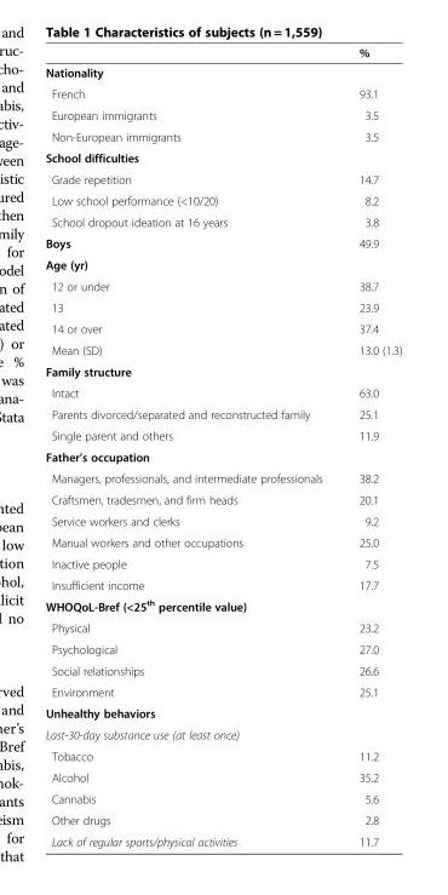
<table><thead><tr><td></td><td>%</td></tr></thead><tbody><tr><td colspan="2">Nationality</td></tr><tr><td>French</td><td>93.1</td></tr><tr><td>European immigrants</td><td>3.5</td></tr><tr><td>Non-European immigrants</td><td>3.5</td></tr><tr><td colspan="2">School difficulties</td></tr><tr><td>Grade repetition</td><td>14.7</td></tr><tr><td>Low school performance (&lt;10/20)</td><td>8.2</td></tr><tr><td>School dropout ideation at 16 years</td><td>3.8</td></tr><tr><td>Boys</td><td>49.9</td></tr><tr><td colspan="2">Age (yr)</td></tr><tr><td>12 or under</td><td>38.7</td></tr><tr><td>13</td><td>23.9</td></tr><tr><td>14 or over</td><td>37.4</td></tr><tr><td>Mean (SD)</td><td>13.0 (1.3)</td></tr><tr><td colspan="2">Family structure</td></tr><tr><td>Intact</td><td>63.0</td></tr><tr><td>Parents divorced/separated and reconstructed family</td><td>25.1</td></tr><tr><td>Single parent and others</td><td>11.9</td></tr><tr><td colspan="2">Father’s occupation</td></tr><tr><td>Managers, professionals, and intermediate professionals</td><td>38.2</td></tr><tr><td>Craftsmen, tradesmen, and firm heads</td><td>20.1</td></tr><tr><td>Service workers and clerks</td><td>9.2</td></tr><tr><td>Manual workers and other occupations</td><td>25.0</td></tr><tr><td>Inactive people</td><td>7.5</td></tr><tr><td>Insufficient income</td><td>17.7</td></tr><tr><td colspan="2">WHOQoL-Bref (&lt;25<sup>th</sup> percentile value)</td></tr><tr><td>Physical</td><td>23.2</td></tr><tr><td>Psychological</td><td>27.0</td></tr><tr><td>Social relationships</td><td>26.6</td></tr><tr><td>Environment</td><td>25.1</td></tr><tr><td colspan="2">Unhealthy behaviors</td></tr><tr><td colspan="2">Last-30-day substance use (at least once)</td></tr><tr><td>Tobacco</td><td>11.2</td></tr><tr><td>Alcohol</td><td>35.2</td></tr><tr><td>Cannabis</td><td>5.6</td></tr><tr><td>Other drugs</td><td>2.8</td></tr><tr><td>Lack of regular sports/physical activities</td><td>11.7</td></tr></tbody></table>